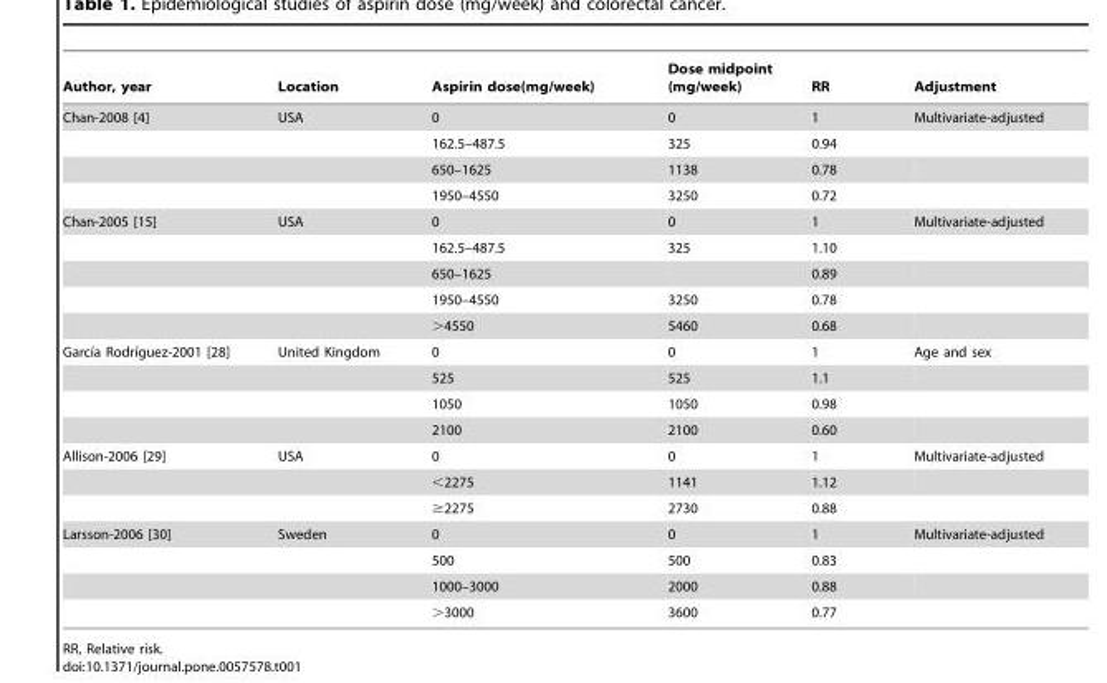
<table><thead><tr><td>Author, year</td><td>Location</td><td>Aspirin dose(mg/week)</td><td>Dose midpoint (mg/week)</td><td>RR</td><td>Adjustment</td></tr></thead><tbody><tr><td rowspan="4">Chan-2008 [4]</td><td>USA</td><td>0</td><td>0</td><td>1</td><td>Multivariate-adjusted</td></tr><tr><td></td><td>162.5–487.5</td><td>325</td><td>0.94</td><td></td></tr><tr><td></td><td>650–1625</td><td>1138</td><td>0.78</td><td></td></tr><tr><td></td><td>1950–4550</td><td>3250</td><td>0.72</td><td></td></tr><tr><td rowspan="5">Chan-2005 [15]</td><td>USA</td><td>0</td><td>0</td><td>1</td><td>Multivariate-adjusted</td></tr><tr><td></td><td>162.5–487.5</td><td>325</td><td>1.10</td><td></td></tr><tr><td></td><td>650–1625</td><td></td><td>0.89</td><td></td></tr><tr><td></td><td>1950–4550</td><td>3250</td><td>0.78</td><td></td></tr><tr><td></td><td>&gt;4550</td><td>5460</td><td>0.68</td><td></td></tr><tr><td rowspan="4">Garcı´a Rodrı´guez-2001 [28]</td><td>United Kingdom</td><td>0</td><td>0</td><td>1</td><td>Age and sex</td></tr><tr><td></td><td>525</td><td>525</td><td>1.1</td><td></td></tr><tr><td></td><td>1050</td><td>1050</td><td>0.98</td><td></td></tr><tr><td></td><td>2100</td><td>2100</td><td>0.60</td><td></td></tr><tr><td rowspan="3">Allison-2006 [29]</td><td>USA</td><td>0</td><td>0</td><td>1</td><td>Multivariate-adjusted</td></tr><tr><td></td><td>&lt;2275</td><td>1141</td><td>1.12</td><td></td></tr><tr><td></td><td>≥2275</td><td>2730</td><td>0.88</td><td></td></tr><tr><td rowspan="4">Larsson-2006 [30]</td><td>Sweden</td><td>0</td><td>0</td><td>1</td><td>Multivariate-adjusted</td></tr><tr><td></td><td>500</td><td>500</td><td>0.83</td><td></td></tr><tr><td></td><td>1000–3000</td><td>2000</td><td>0.88</td><td></td></tr><tr><td></td><td>&gt;3000</td><td>3600</td><td>0.77</td><td></td></tr></tbody></table>